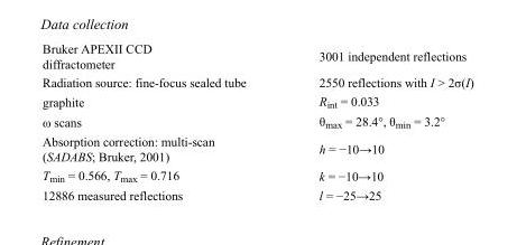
<table><tbody><tr><td>Bruker APEXII CCD diffractometer</td><td>3001 independent reflections</td></tr><tr><td>Radiation source: fine-focus sealed tube</td><td>2550 reflections with I &gt; 2σ(I)</td></tr><tr><td>graphite</td><td>R<sub>int</sub> = 0.033</td></tr><tr><td>ω scans</td><td>θ<sub>max</sub> = 28.4°, θ<sub>min</sub> = 3.2°</td></tr><tr><td>Absorption correction: multi-scan (SADABS; Bruker, 2001)</td><td>h = −10→10</td></tr><tr><td>T<sub>min</sub> = 0.566, T<sub>max</sub> = 0.716</td><td>k = −10→10</td></tr><tr><td>12886 measured reflections</td><td>l = −25→25</td></tr></tbody></table>